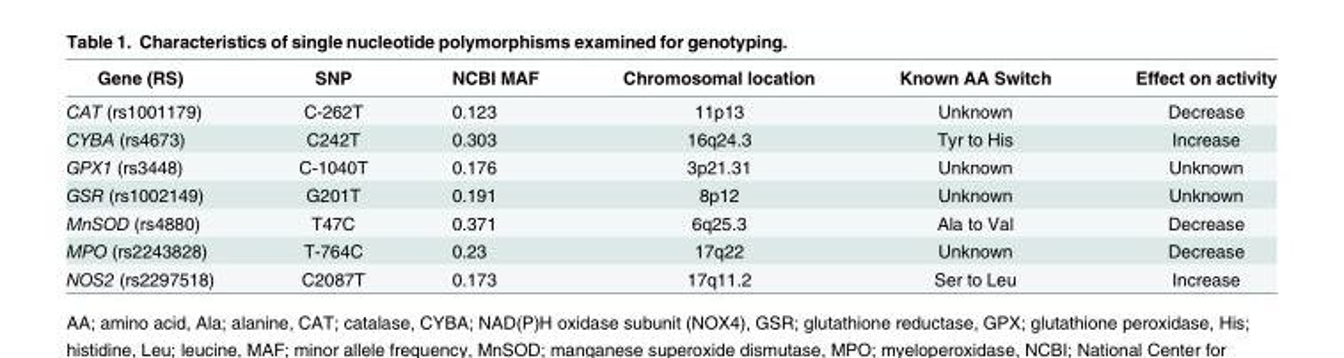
<table><thead><tr><td>Gene (RS)</td><td>SNP</td><td>NCBI MAF</td><td>Chromosomal location</td><td>Known AA Switch</td><td>Effect on activity</td></tr></thead><tbody><tr><td>CAT (rs1001179)</td><td>C-262T</td><td>0.123</td><td>11p13</td><td>Unknown</td><td>Decrease</td></tr><tr><td>CYBA (rs4673)</td><td>C242T</td><td>0.303</td><td>16q24.3</td><td>Tyr to His</td><td>Increase</td></tr><tr><td>GPX1 (rs3448)</td><td>C-1040T</td><td>0.176</td><td>3p21.31</td><td>Unknown</td><td>Unknown</td></tr><tr><td>GSR (rs1002149)</td><td>G201T</td><td>0.191</td><td>8p12</td><td>Unknown</td><td>Unknown</td></tr><tr><td>MnSOD (rs4880)</td><td>T47C</td><td>0.371</td><td>6q25.3</td><td>Ala to Val</td><td>Decrease</td></tr><tr><td>MPO (rs2243828)</td><td>T-764C</td><td>0.23</td><td>17q22</td><td>Unknown</td><td>Decrease</td></tr><tr><td>NOS2 (rs2297518)</td><td>C2087T</td><td>0.173</td><td>17q11.2</td><td>Ser to Leu</td><td>Increase</td></tr></tbody></table>